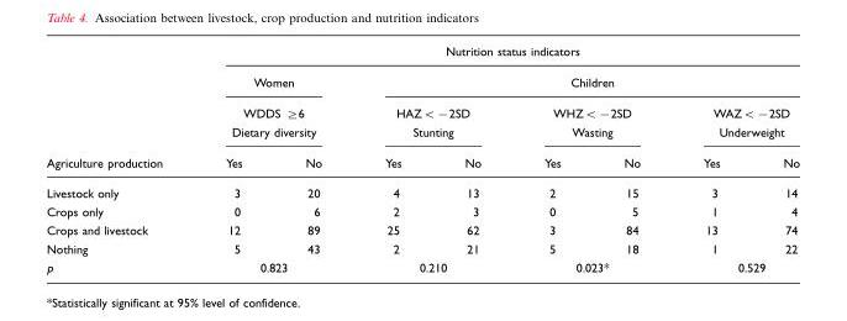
<table><thead><tr><td rowspan="4">Agriculture production</td><td colspan="8">Nutrition status indicators</td></tr><tr><td rowspan="2" colspan="2">Women WDDS ≥6 Dietary diversity</td><td colspan="6">Children</td></tr><tr><td colspan="2">HAZ&lt;−2SD Stunting</td><td colspan="2">WHZ&lt;−2SD Wasting</td><td colspan="2">WAZ&lt;−2SD Underweight</td></tr><tr><td>Yes</td><td>No</td><td>Yes</td><td>No</td><td>Yes</td><td>No</td><td>Yes</td><td>No</td></tr></thead><tbody><tr><td>Livestock only</td><td>3</td><td>20</td><td>4</td><td>13</td><td>2</td><td>15</td><td>3</td><td>14</td></tr><tr><td>Crops only</td><td>0</td><td>6</td><td>2</td><td>3</td><td>0</td><td>5</td><td>1</td><td>4</td></tr><tr><td>Crops and livestock</td><td>12</td><td>89</td><td>25</td><td>62</td><td>3</td><td>84</td><td>13</td><td>74</td></tr><tr><td>Nothing</td><td>5</td><td>43</td><td>2</td><td>21</td><td>5</td><td>18</td><td>1</td><td>22</td></tr><tr><td>p</td><td colspan="2">0.823</td><td colspan="2">0.210</td><td colspan="2">0.023*</td><td colspan="2">0.529</td></tr></tbody></table>